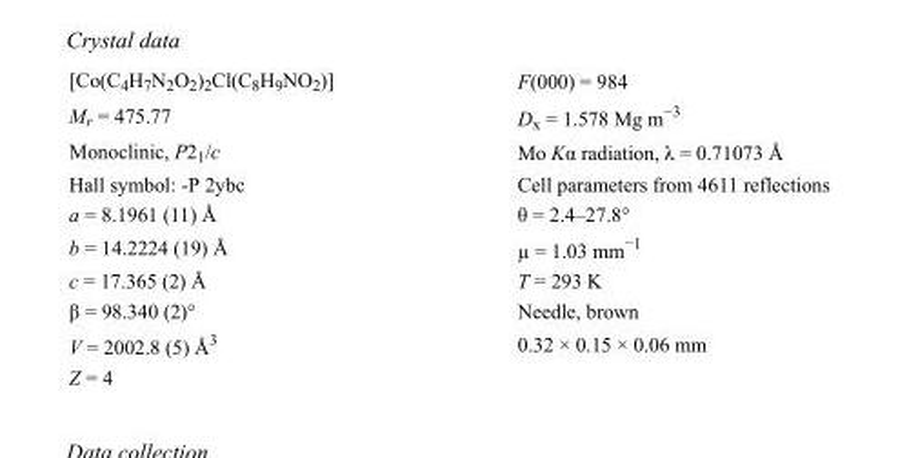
<table><tbody><tr><td>[Co(C<sub>4</sub>H<sub>7</sub>N<sub>2</sub>O<sub>2</sub>)<sub>2</sub>Cl(C<sub>8</sub>H<sub>9</sub>NO<sub>2</sub>)]</td><td>F(000) = 984</td></tr><tr><td>M<sub>r</sub> = 475.77</td><td>D<sub>x</sub> = 1.578 Mg m<sup>−3</sup></td></tr><tr><td>Monoclinic, P2<sub>1</sub>/c</td><td>Mo Kα radiation, λ = 0.71073 Å</td></tr><tr><td>Hall symbol: -P 2ybc</td><td>Cell parameters from 4611 reflections</td></tr><tr><td>a = 8.1961 (11) Å</td><td>θ = 2.4–27.8°</td></tr><tr><td>b = 14.2224 (19) Å</td><td>µ = 1.03 mm<sup>−1</sup></td></tr><tr><td>c = 17.365 (2) Å</td><td>T = 293 K</td></tr><tr><td>β = 98.340 (2)°</td><td>Needle, brown</td></tr><tr><td>V = 2002.8 (5) Å<sup>3</sup></td><td>0.32 × 0.15 × 0.06 mm</td></tr><tr><td>Z = 4</td><td></td></tr></tbody></table>